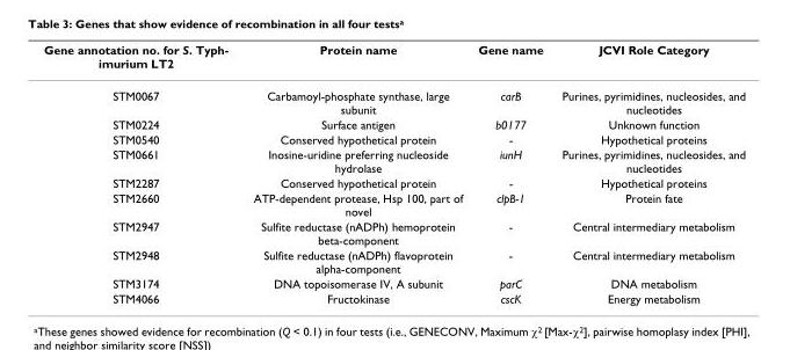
<table><thead><tr><td>Gene annotation no. for S. Typh- imurium LT2</td><td>Protein name</td><td>Gene name</td><td>JCVI Role Category</td></tr></thead><tbody><tr><td>STM0067</td><td>Carbamoyl-phosphate synthase, large subunit</td><td>carB</td><td>Purines, pyrimidines, nucleosides, and nucleotides</td></tr><tr><td>STM0224</td><td>Surface antigen</td><td>b0177</td><td>Unknown function</td></tr><tr><td>STM0540</td><td>Conserved hypothetical protein</td><td>-</td><td>Hypothetical proteins</td></tr><tr><td>STM0661</td><td>Inosine-uridine preferring nucleoside hydrolase</td><td>iunH</td><td>Purines, pyrimidines, nucleosides, and nucleotides</td></tr><tr><td>STM2287</td><td>Conserved hypothetical protein</td><td>-</td><td>Hypothetical proteins</td></tr><tr><td>STM2660</td><td>ATP-dependent protease, Hsp 100, part of novel</td><td>clpB-1</td><td>Protein fate</td></tr><tr><td>STM2947</td><td>Sulfite reductase (nADPh) hemoprotein beta-component</td><td>-</td><td>Central intermediary metabolism</td></tr><tr><td>STM2948</td><td>Sulfite reductase (nADPh) flavoprotein alpha-component</td><td>-</td><td>Central intermediary metabolism</td></tr><tr><td>STM3174</td><td>DNA topoisomerase IV, A subunit</td><td>parC</td><td>DNA metabolism</td></tr><tr><td>STM4066</td><td>Fructokinase</td><td>cscK</td><td>Energy metabolism</td></tr></tbody></table>